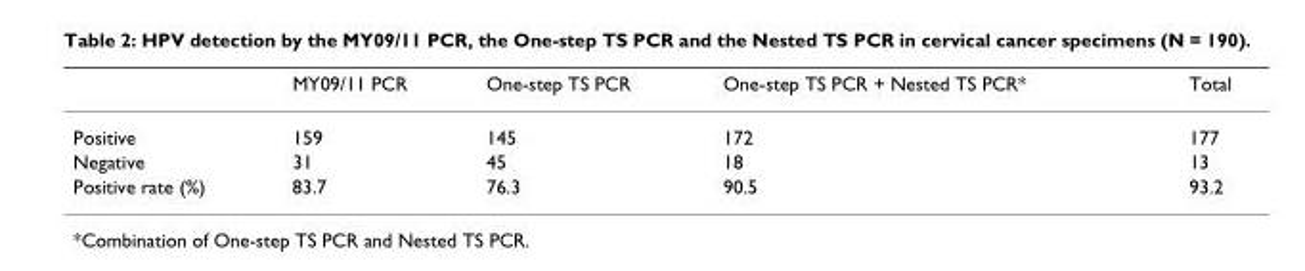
<table><thead><tr><td></td><td>MY09/11 PCR</td><td>One-step TS PCR</td><td>One-step TS PCR + Nested TS PCR*</td><td>Total</td></tr></thead><tbody><tr><td>Positive</td><td>159</td><td>145</td><td>172</td><td>177</td></tr><tr><td>Negative</td><td>31</td><td>45</td><td>18</td><td>13</td></tr><tr><td>Positive rate (%)</td><td>83.7</td><td>76.3</td><td>90.5</td><td>93.2</td></tr></tbody></table>